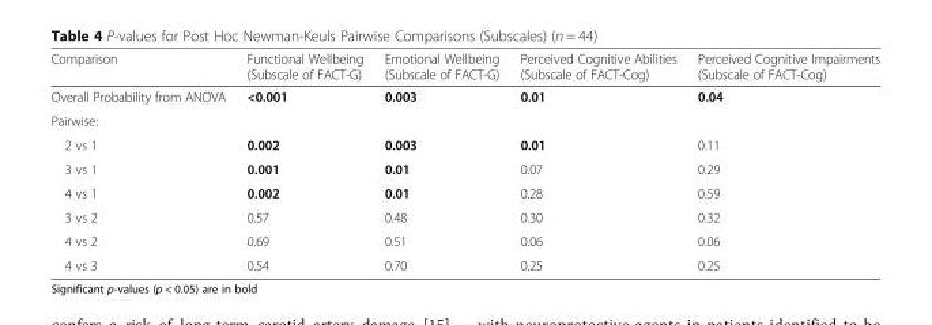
<table><thead><tr><td>Comparison</td><td>Functional Wellbeing (Subscale of FACT-G)</td><td>Emotional Wellbeing (Subscale of FACT-G)</td><td>Perceived Cognitive Abilities (Subscale of FACT-Cog)</td><td>Perceived Cognitive Impairments (Subscale of FACT-Cog)</td></tr></thead><tbody><tr><td>Overall Probability from ANOVA</td><td>&lt;0.001</td><td>0.003</td><td>0.01</td><td>0.04</td></tr><tr><td colspan="5">Pairwise:</td></tr><tr><td>2 vs 1</td><td>0.002</td><td>0.003</td><td>0.01</td><td>0.11</td></tr><tr><td>3 vs 1</td><td>0.001</td><td>0.01</td><td>0.07</td><td>0.29</td></tr><tr><td>4 vs 1</td><td>0.002</td><td>0.01</td><td>0.28</td><td>0.59</td></tr><tr><td>3 vs 2</td><td>0.57</td><td>0.48</td><td>0.30</td><td>0.32</td></tr><tr><td>4 vs 2</td><td>0.69</td><td>0.51</td><td>0.06</td><td>0.06</td></tr><tr><td>4 vs 3</td><td>0.54</td><td>0.70</td><td>0.25</td><td>0.25</td></tr></tbody></table>